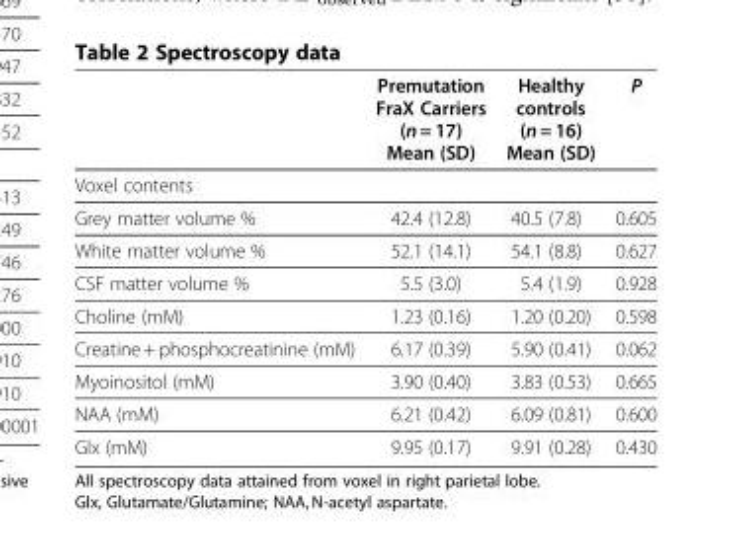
<table><thead><tr><td></td><td>Premutation FraX Carriers (n = 17) Mean (SD)</td><td>Healthy controls (n = 16) Mean (SD)</td><td>P</td></tr></thead><tbody><tr><td colspan="4">Voxel contents</td></tr><tr><td>Grey matter volume %</td><td>42.4 (12.8)</td><td>40.5 (7.8)</td><td>0.605</td></tr><tr><td>White matter volume %</td><td>52.1 (14.1)</td><td>54.1 (8.8)</td><td>0.627</td></tr><tr><td>CSF matter volume %</td><td>5.5 (3.0)</td><td>5.4 (1.9)</td><td>0.928</td></tr><tr><td>Choline (mM)</td><td>1.23 (0.16)</td><td>1.20 (0.20)</td><td>0.598</td></tr><tr><td>Creatine + phosphocreatinine (mM)</td><td>6.17 (0.39)</td><td>5.90 (0.41)</td><td>0.062</td></tr><tr><td>Myoinositol (mM)</td><td>3.90 (0.40)</td><td>3.83 (0.53)</td><td>0.665</td></tr><tr><td>NAA (mM)</td><td>6.21 (0.42)</td><td>6.09 (0.81)</td><td>0.600</td></tr><tr><td>Glx (mM)</td><td>9.95 (0.17)</td><td>9.91 (0.28)</td><td>0.430</td></tr></tbody></table>